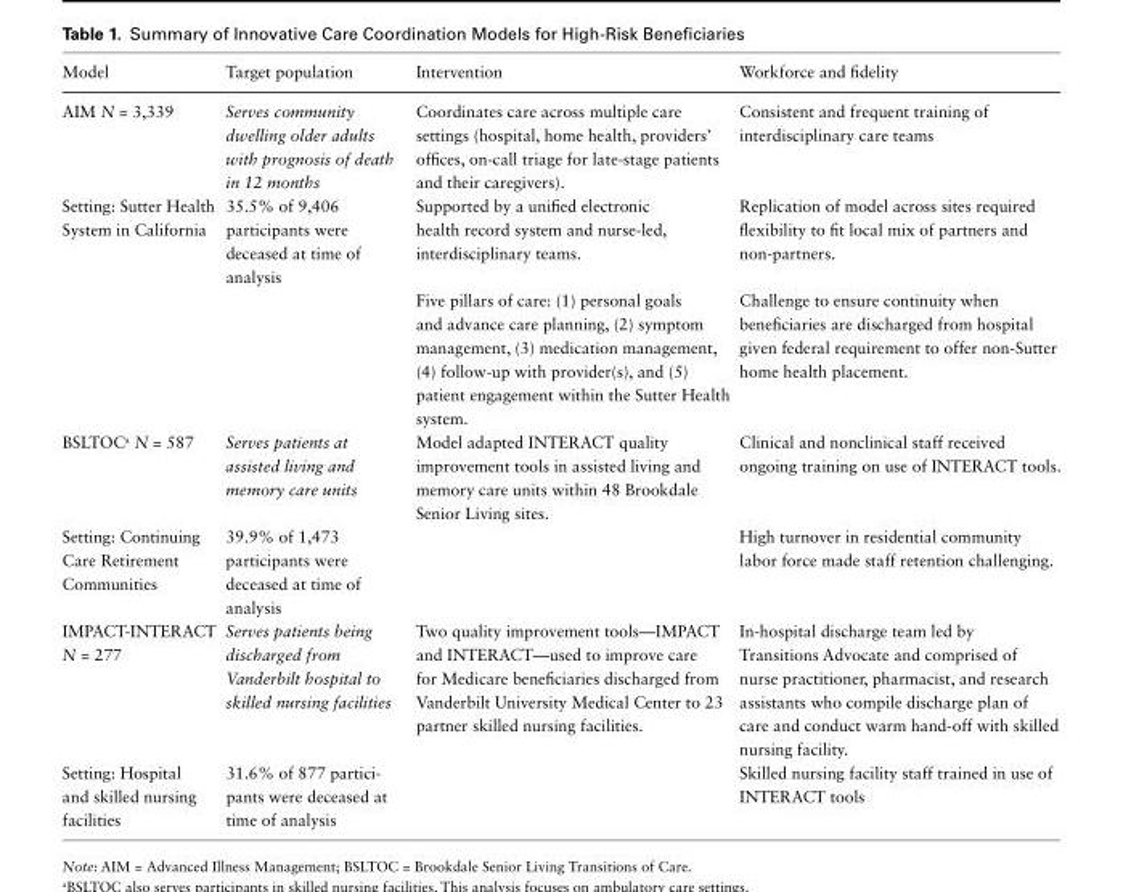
<table><thead><tr><td>Model</td><td>Target population</td><td>Intervention</td><td>Workforce and fidelity</td></tr></thead><tbody><tr><td>AIM N = 3,339</td><td>Serves community dwelling older adults with prognosis of death in 12 months</td><td>Coordinates care across multiple care settings (hospital, home health, providers’ offices, on-call triage for late-stage patients and their caregivers).</td><td>Consistent and frequent training of interdisciplinary care teams</td></tr><tr><td rowspan="2">Setting: Sutter Health System in California</td><td>35.5% of 9,406 participants were deceased at time of analysis</td><td>Supported by a unified electronic health record system and nurse-led, interdisciplinary teams.</td><td>Replication of model across sites required flexibility to fit local mix of partners and non-partners.</td></tr><tr><td></td><td>Five pillars of care: (1) personal goals and advance care planning, (2) symptom management, (3) medication management, (4) follow-up with provider(s), and (5) patient engagement within the Sutter Health system.</td><td>Challenge to ensure continuity when beneficiaries are discharged from hospital given federal requirement to offer non-Sutter home health placement.</td></tr><tr><td>BSLTOC<sup>a</sup> N = 587</td><td>Serves patients at assisted living and memory care units</td><td>Model adapted INTERACT quality improvement tools in assisted living and memory care units within 48 Brookdale Senior Living sites.</td><td>Clinical and nonclinical staff received ongoing training on use of INTERACT tools.</td></tr><tr><td>Setting: Continuing Care Retirement Communities</td><td>39.9% of 1,473 participants were deceased at time of analysis</td><td></td><td>High turnover in residential community labor force made staff retention challenging.</td></tr><tr><td>IMPACT-INTERACT N = 277</td><td>Serves patients being discharged from Vanderbilt hospital to skilled nursing facilities</td><td>Two quality improvement tools—IMPACT and INTERACT—used to improve care for Medicare beneficiaries discharged from Vanderbilt University Medical Center to 23 partner skilled nursing facilities.</td><td>In-hospital discharge team led by Transitions Advocate and comprised of nurse practitioner, pharmacist, and research assistants who compile discharge plan of care and conduct warm hand-off with skilled nursing facility.</td></tr><tr><td>Setting: Hospital and skilled nursing facilities</td><td>31.6% of 877 partici- pants were deceased at time of analysis</td><td></td><td>Skilled nursing facility staff trained in use of INTERACT tools</td></tr></tbody></table>